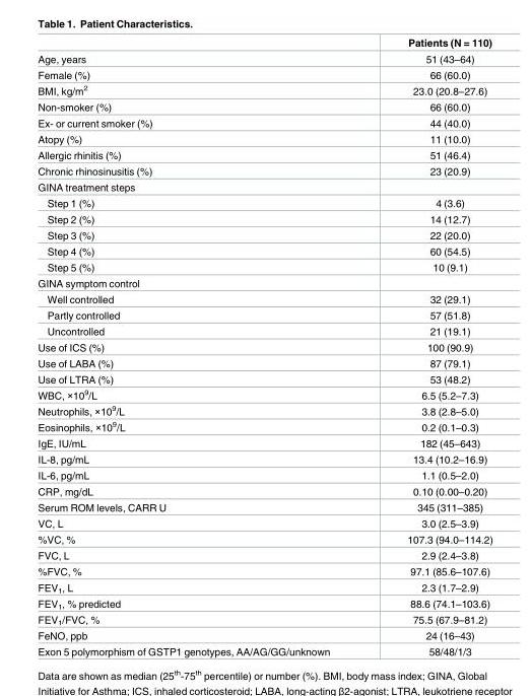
<table><thead><tr><td></td><td>Patients (N = 110)</td></tr></thead><tbody><tr><td>Age, years</td><td>51 (43–64)</td></tr><tr><td>Female (%)</td><td>66 (60.0)</td></tr><tr><td>BMI, kg/m<sup>2</sup></td><td>23.0 (20.8–27.6)</td></tr><tr><td>Non-smoker (%)</td><td>66 (60.0)</td></tr><tr><td>Ex- or current smoker (%)</td><td>44 (40.0)</td></tr><tr><td>Atopy (%)</td><td>11 (10.0)</td></tr><tr><td>Allergic rhinitis (%)</td><td>51 (46.4)</td></tr><tr><td>Chronic rhinosinusitis (%)</td><td>23 (20.9)</td></tr><tr><td colspan="2">GINA treatment steps</td></tr><tr><td>Step 1 (%)</td><td>4 (3.6)</td></tr><tr><td>Step 2 (%)</td><td>14 (12.7)</td></tr><tr><td>Step 3 (%)</td><td>22 (20.0)</td></tr><tr><td>Step 4 (%)</td><td>60 (54.5)</td></tr><tr><td>Step 5 (%)</td><td>10 (9.1)</td></tr><tr><td colspan="2">GINA symptom control</td></tr><tr><td>Well controlled</td><td>32 (29.1)</td></tr><tr><td>Partly controlled</td><td>57 (51.8)</td></tr><tr><td>Uncontrolled</td><td>21 (19.1)</td></tr><tr><td>Use of ICS (%)</td><td>100 (90.9)</td></tr><tr><td>Use of LABA (%)</td><td>87 (79.1)</td></tr><tr><td>Use of LTRA (%)</td><td>53 (48.2)</td></tr><tr><td>WBC, ×10<sup>9</sup>/L</td><td>6.5 (5.2–7.3)</td></tr><tr><td>Neutrophils, ×10<sup>9</sup>/L</td><td>3.8 (2.8–5.0)</td></tr><tr><td>Eosinophils, ×10<sup>9</sup>/L</td><td>0.2 (0.1–0.3)</td></tr><tr><td>IgE, IU/mL</td><td>182 (45–643)</td></tr><tr><td>IL-8, pg/mL</td><td>13.4 (10.2–16.9)</td></tr><tr><td>IL-6, pg/mL</td><td>1.1 (0.5–2.0)</td></tr><tr><td>CRP, mg/dL</td><td>0.10 (0.00–0.20)</td></tr><tr><td>Serum ROM levels, CARR U</td><td>345 (311–385)</td></tr><tr><td>VC, L</td><td>3.0 (2.5–3.9)</td></tr><tr><td>%VC, %</td><td>107.3 (94.0–114.2)</td></tr><tr><td>FVC, L</td><td>2.9 (2.4–3.8)</td></tr><tr><td>%FVC, %</td><td>97.1 (85.6–107.6)</td></tr><tr><td>FEV<sub>1</sub>, L</td><td>2.3 (1.7–2.9)</td></tr><tr><td>FEV<sub>1</sub>, % predicted</td><td>88.6 (74.1–103.6)</td></tr><tr><td>FEV<sub>1</sub>/FVC, %</td><td>75.5 (67.9–81.2)</td></tr><tr><td>FeNO, ppb</td><td>24 (16–43)</td></tr><tr><td>Exon 5 polymorphism of GSTP1 genotypes, AA/AG/GG/unknown</td><td>58/48/1/3</td></tr></tbody></table>